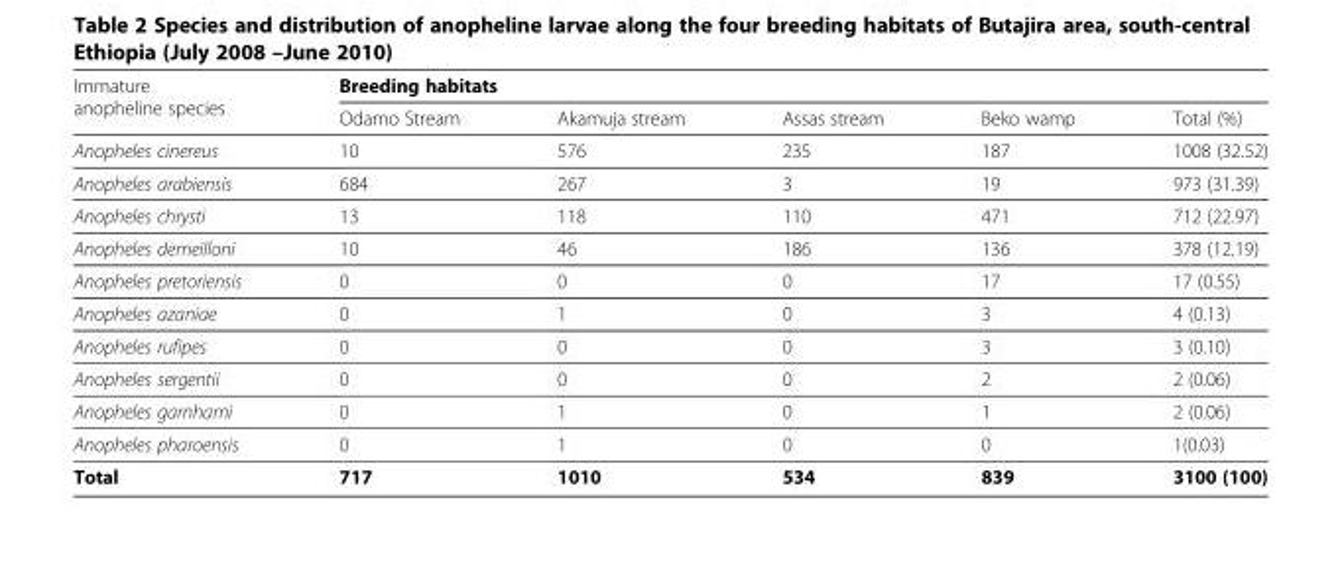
<table><tbody><tr><td rowspan="2">Immature anopheline species</td><td colspan="4">Breeding habitats</td><td></td></tr><tr><td>Odamo Stream</td><td>Akamuja stream</td><td>Assas stream</td><td>Beko wamp</td><td>Total (%)</td></tr><tr><td>Anopheles cinereus</td><td>10</td><td>576</td><td>235</td><td>187</td><td>1008 (32.52)</td></tr><tr><td>Anopheles arabiensis</td><td>684</td><td>267</td><td>3</td><td>19</td><td>973 (31.39)</td></tr><tr><td>Anopheles chrysti</td><td>13</td><td>118</td><td>110</td><td>471</td><td>712 (22.97)</td></tr><tr><td>Anopheles demeilloni</td><td>10</td><td>46</td><td>186</td><td>136</td><td>378 (12.19)</td></tr><tr><td>Anopheles pretoriensis</td><td>0</td><td>0</td><td>0</td><td>17</td><td>17 (0.55)</td></tr><tr><td>Anopheles azaniae</td><td>0</td><td>1</td><td>0</td><td>3</td><td>4 (0.13)</td></tr><tr><td>Anopheles rufipes</td><td>0</td><td>0</td><td>0</td><td>3</td><td>3 (0.10)</td></tr><tr><td>Anopheles sergentii</td><td>0</td><td>0</td><td>0</td><td>2</td><td>2 (0.06)</td></tr><tr><td>Anopheles garnhami</td><td>0</td><td>1</td><td>0</td><td>1</td><td>2 (0.06)</td></tr><tr><td>Anopheles pharoensis</td><td>0</td><td>1</td><td>0</td><td>0</td><td>1(0.03)</td></tr><tr><td>Total</td><td>717</td><td>1010</td><td>534</td><td>839</td><td>3100 (100)</td></tr></tbody></table>